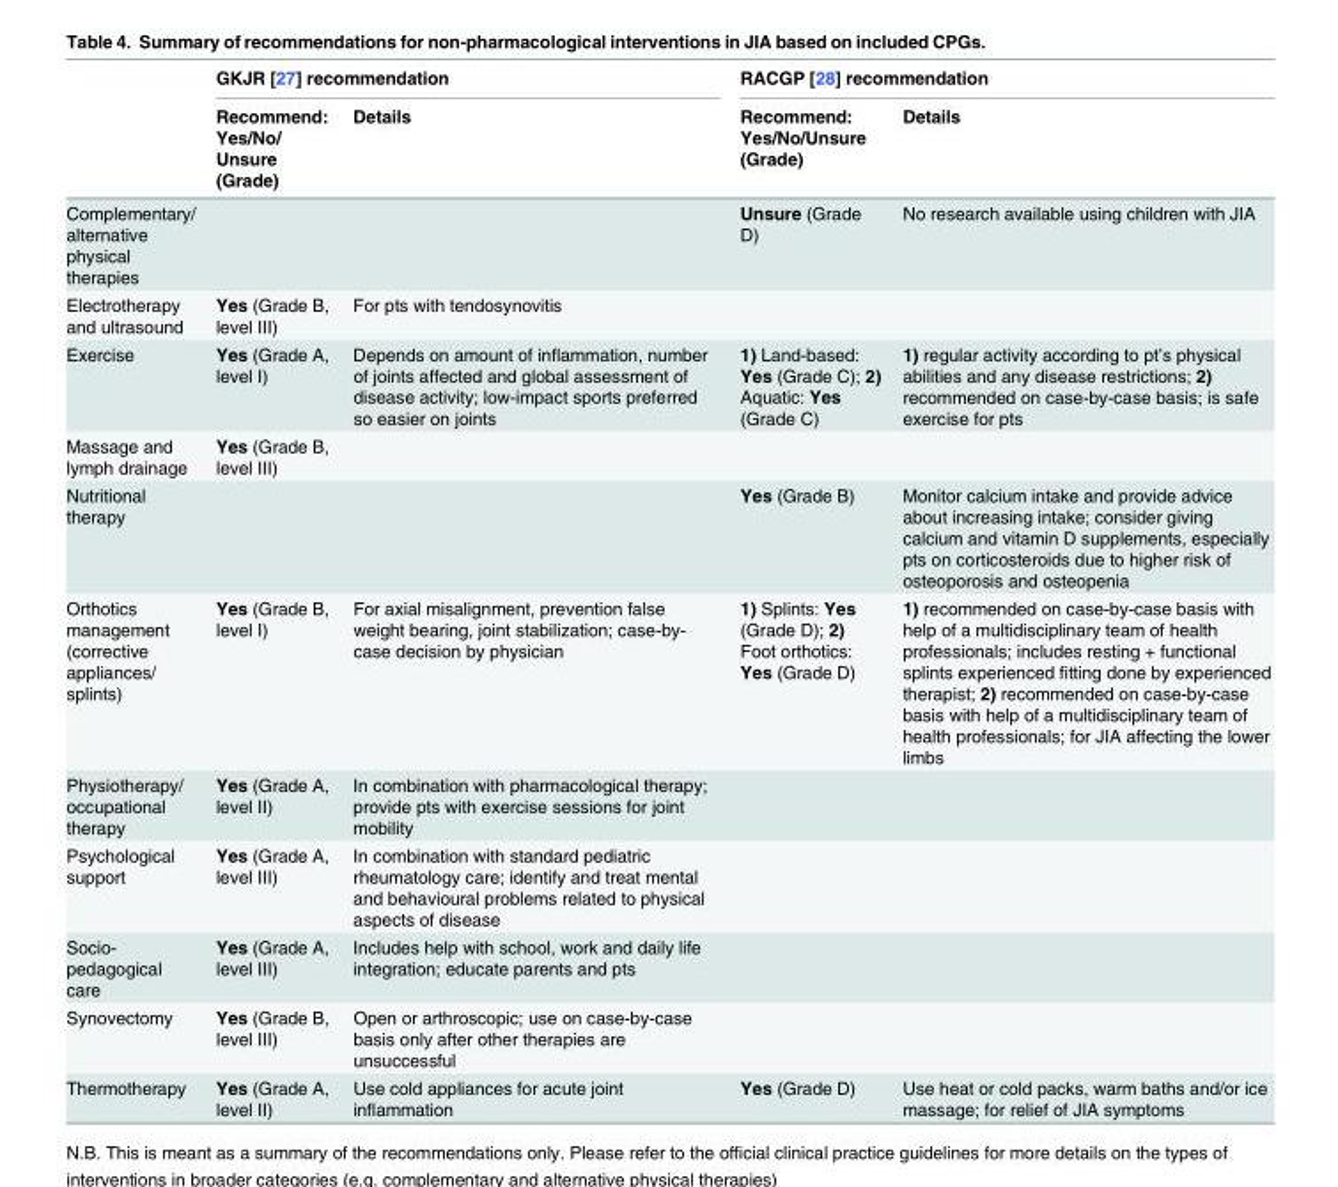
<table><thead><tr><td rowspan="2"></td><td colspan="2">GKJR [27] recommendation</td><td colspan="2">RACGP [28] recommendation</td></tr><tr><td>Recommend: Yes/No/ Unsure (Grade)</td><td>Details</td><td>Recommend: Yes/No/Unsure (Grade)</td><td>Details</td></tr></thead><tbody><tr><td>Complementary/ alternative physical therapies</td><td></td><td></td><td>Unsure (Grade D)</td><td>No research available using children with JIA</td></tr><tr><td>Electrotherapy and ultrasound</td><td>Yes (Grade B, level III)</td><td>For pts with tendosynovitis</td><td></td><td></td></tr><tr><td>Exercise</td><td>Yes (Grade A, level I)</td><td>Depends on amount of inflammation, number of joints affected and global assessment of disease activity; low-impact sports preferred so easier on joints</td><td>1) Land-based: Yes (Grade C); 2) Aquatic: Yes (Grade C)</td><td>1) regular activity according to pt’s physical abilities and any disease restrictions; 2) recommended on case-by-case basis; is safe exercise for pts</td></tr><tr><td>Massage and lymph drainage</td><td>Yes (Grade B, level III)</td><td></td><td></td><td></td></tr><tr><td>Nutritional therapy</td><td></td><td></td><td>Yes (Grade B)</td><td>Monitor calcium intake and provide advice about increasing intake; consider giving calcium and vitamin D supplements, especially pts on corticosteroids due to higher risk of osteoporosis and osteopenia</td></tr><tr><td>Orthotics management (corrective appliances/ splints)</td><td>Yes (Grade B, level I)</td><td>For axial misalignment, prevention false weight bearing, joint stabilization; case-by- case decision by physician</td><td>1) Splints: Yes (Grade D); 2) Foot orthotics: Yes (Grade D)</td><td>1) recommended on case-by-case basis with help of a multidisciplinary team of health professionals; includes resting + functional splints experienced fitting done by experienced therapist; 2) recommended on case-by-case basis with help of a multidisciplinary team of health professionals; for JIA affecting the lower limbs</td></tr><tr><td>Physiotherapy/ occupational therapy</td><td>Yes (Grade A, level II)</td><td>In combination with pharmacological therapy; provide pts with exercise sessions for joint mobility</td><td></td><td></td></tr><tr><td>Psychological support</td><td>Yes (Grade A, level III)</td><td>In combination with standard pediatric rheumatology care; identify and treat mental and behavioural problems related to physical aspects of disease</td><td></td><td></td></tr><tr><td>Socio- pedagogical care</td><td>Yes (Grade A, level III)</td><td>Includes help with school, work and daily life integration; educate parents and pts</td><td></td><td></td></tr><tr><td>Synovectomy</td><td>Yes (Grade B, level III)</td><td>Open or arthroscopic; use on case-by-case basis only after other therapies are unsuccessful</td><td></td><td></td></tr><tr><td>Thermotherapy</td><td>Yes (Grade A, level II)</td><td>Use cold appliances for acute joint inflammation</td><td>Yes (Grade D)</td><td>Use heat or cold packs, warm baths and/or ice massage; for relief of JIA symptoms</td></tr></tbody></table>